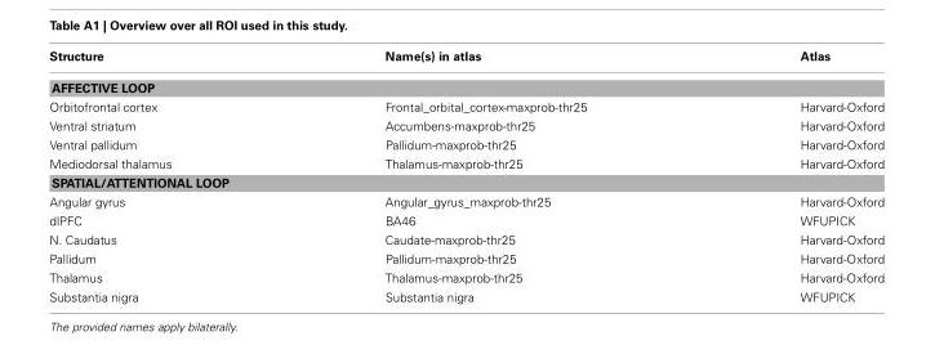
<table><thead><tr><td>Structure</td><td>Name(s) in atlas</td><td>Atlas</td></tr></thead><tbody><tr><td colspan="3">AFFECTIVE LOOP</td></tr><tr><td>Orbitofrontal cortex</td><td>Frontal_orbital_cortex-maxprob-thr25</td><td>Harvard-Oxford</td></tr><tr><td>Ventral striatum</td><td>Accumbens-maxprob-thr25</td><td>Harvard-Oxford</td></tr><tr><td>Ventral pallidum</td><td>Pallidum-maxprob-thr25</td><td>Harvard-Oxford</td></tr><tr><td>Mediodorsal thalamus</td><td>Thalamus-maxprob-thr25</td><td>Harvard-Oxford</td></tr><tr><td colspan="3">SPATIAL/ATTENTIONAL LOOP</td></tr><tr><td>Angular gyrus</td><td>Angular_gyrus_maxprob-thr25</td><td>Harvard-Oxford</td></tr><tr><td>dlPFC</td><td>BA46</td><td>WFUPICK</td></tr><tr><td>N. Caudatus</td><td>Caudate-maxprob-thr25</td><td>Harvard-Oxford</td></tr><tr><td>Pallidum</td><td>Pallidum-maxprob-thr25</td><td>Harvard-Oxford</td></tr><tr><td>Thalamus</td><td>Thalamus-maxprob-thr25</td><td>Harvard-Oxford</td></tr><tr><td>Substantia nigra</td><td>Substantia nigra</td><td>WFUPICK</td></tr></tbody></table>